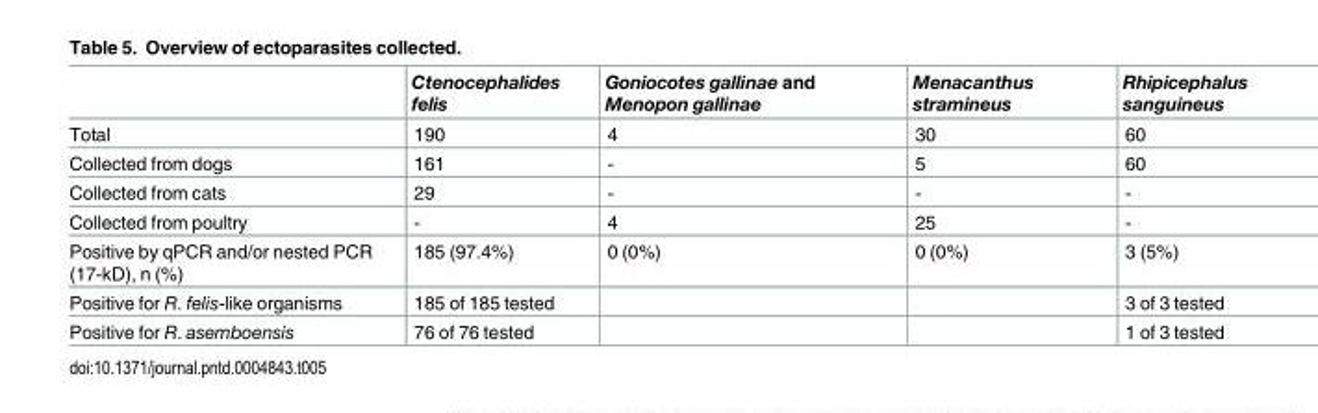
<table><thead><tr><td></td><td>Ctenocephalides felis</td><td>Goniocotes gallinae and Menopon gallinae</td><td>Menacanthus stramineus</td><td>Rhipicephalus sanguineus</td></tr></thead><tbody><tr><td>Total</td><td>190</td><td>4</td><td>30</td><td>60</td></tr><tr><td>Collected from dogs</td><td>161</td><td>-</td><td>5</td><td>60</td></tr><tr><td>Collected from cats</td><td>29</td><td>-</td><td>-</td><td>-</td></tr><tr><td>Collected from poultry</td><td>-</td><td>4</td><td>25</td><td>-</td></tr><tr><td>Positive by qPCR and/or nested PCR (17-kD), n (%)</td><td>185 (97.4%)</td><td>0 (0%)</td><td>0 (0%)</td><td>3 (5%)</td></tr><tr><td>Positive for R. felis-like organisms</td><td>185 of 185 tested</td><td></td><td></td><td>3 of 3 tested</td></tr><tr><td>Positive for R. asemboensis</td><td>76 of 76 tested</td><td></td><td></td><td>1 of 3 tested</td></tr></tbody></table>